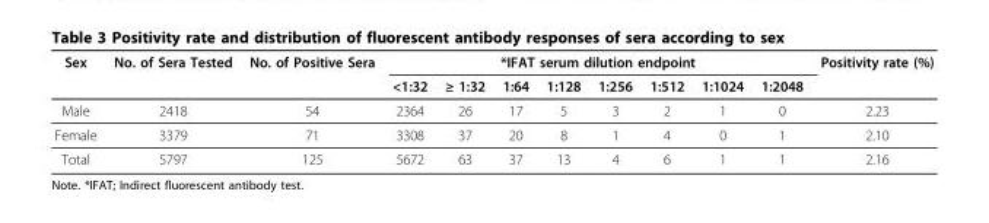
<table><thead><tr><td rowspan="2">Sex</td><td rowspan="2">No. of Sera Tested</td><td rowspan="2">No. of Positive Sera</td><td colspan="8">*IFAT serum dilution endpoint</td><td rowspan="2">Positivity rate (%)</td></tr><tr><td>&lt;1:32</td><td>≥ 1:32</td><td>1:64</td><td>1:128</td><td>1:256</td><td>1:512</td><td>1:1024</td><td>1:2048</td></tr></thead><tbody><tr><td>Male</td><td>2418</td><td>54</td><td>2364</td><td>26</td><td>17</td><td>5</td><td>3</td><td>2</td><td>1</td><td>0</td><td>2.23</td></tr><tr><td>Female</td><td>3379</td><td>71</td><td>3308</td><td>37</td><td>20</td><td>8</td><td>1</td><td>4</td><td>0</td><td>1</td><td>2.10</td></tr><tr><td>Total</td><td>5797</td><td>125</td><td>5672</td><td>63</td><td>37</td><td>13</td><td>4</td><td>6</td><td>1</td><td>1</td><td>2.16</td></tr></tbody></table>